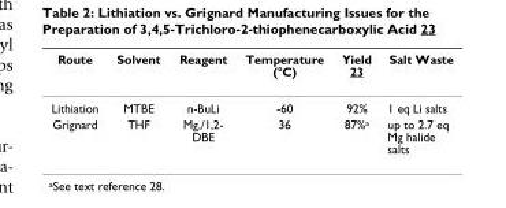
<table><thead><tr><td>Route</td><td>Solvent</td><td>Reagent</td><td>Temperature (°C)</td><td>Yield 23</td><td>Salt Waste</td></tr></thead><tbody><tr><td>Lithiation</td><td>MTBE</td><td>n-BuLi</td><td>-60</td><td>92%</td><td>1 eq Li salts</td></tr><tr><td>Grignard</td><td>THF</td><td>Mg,/1,2- DBE</td><td>36</td><td>87%<sup>a</sup></td><td>up to 2.7 eq Mg halide salts</td></tr></tbody></table>